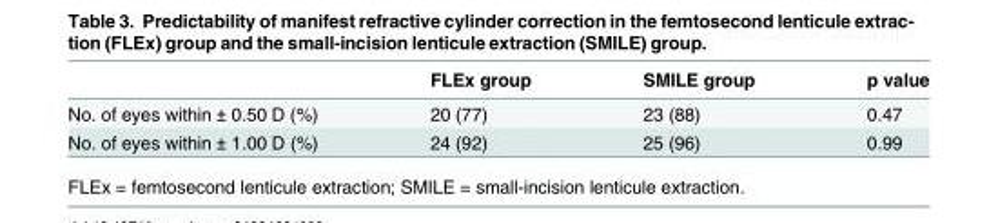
<table><thead><tr><td></td><td>FLEx group</td><td>SMILE group</td><td>p value</td></tr></thead><tbody><tr><td>No. of eyes within ± 0.50 D (%)</td><td>20 (77)</td><td>23 (88)</td><td>0.47</td></tr><tr><td>No. of eyes within ± 1.00 D (%)</td><td>24 (92)</td><td>25 (96)</td><td>0.99</td></tr></tbody></table>